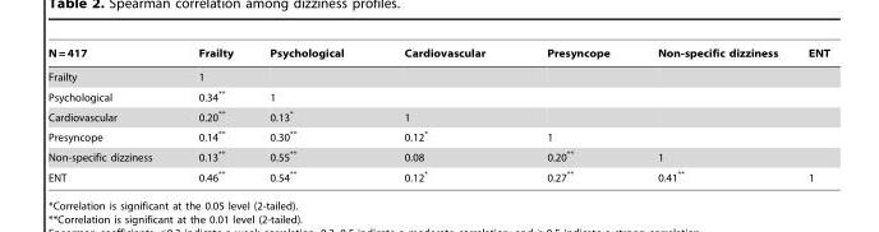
<table><thead><tr><td>N = 417</td><td>Frailty</td><td>Psychological</td><td>Cardiovascular</td><td>Presyncope</td><td>Non-specific dizziness</td><td>ENT</td></tr></thead><tbody><tr><td>Frailty</td><td>1</td><td></td><td></td><td></td><td></td><td></td></tr><tr><td>Psychological</td><td>0.34**</td><td>1</td><td></td><td></td><td></td><td></td></tr><tr><td>Cardiovascular</td><td>0.20**</td><td>0.13*</td><td>1</td><td></td><td></td><td></td></tr><tr><td>Presyncope</td><td>0.14**</td><td>0.30**</td><td>0.12*</td><td>1</td><td></td><td></td></tr><tr><td>Non-specific dizziness</td><td>0.13**</td><td>0.55**</td><td>0.08</td><td>0.20**</td><td>1</td><td></td></tr><tr><td>ENT</td><td>0.46**</td><td>0.54**</td><td>0.12*</td><td>0.27**</td><td>0.41**</td><td>1</td></tr></tbody></table>